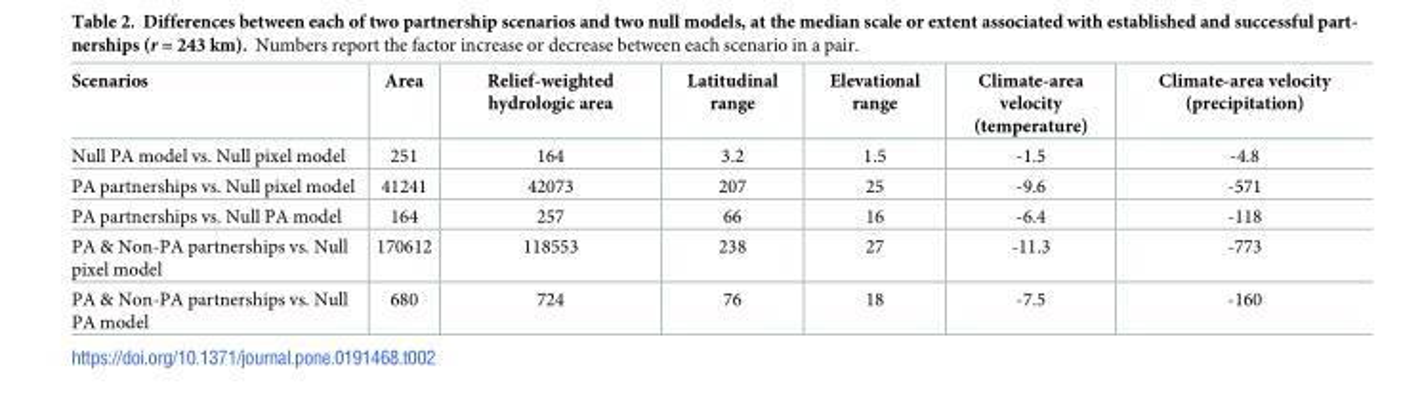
<table><thead><tr><td>Scenarios</td><td>Area</td><td>Relief-weighted hydrologic area</td><td>Latitudinal range</td><td>Elevational range</td><td>Climate-area velocity (temperature)</td><td>Climate-area velocity (precipitation)</td></tr></thead><tbody><tr><td>Null PA model vs. Null pixel model</td><td>251</td><td>164</td><td>3.2</td><td>1.5</td><td>-1.5</td><td>-4.8</td></tr><tr><td>PA partnerships vs. Null pixel model</td><td>41241</td><td>42073</td><td>207</td><td>25</td><td>-9.6</td><td>-571</td></tr><tr><td>PA partnerships vs. Null PA model</td><td>164</td><td>257</td><td>66</td><td>16</td><td>-6.4</td><td>-118</td></tr><tr><td>PA &amp; Non-PA partnerships vs. Null pixel model</td><td>170612</td><td>118553</td><td>238</td><td>27</td><td>-11.3</td><td>-773</td></tr><tr><td>PA &amp; Non-PA partnerships vs. Null PA model</td><td>680</td><td>724</td><td>76</td><td>18</td><td>-7.5</td><td>-160</td></tr></tbody></table>